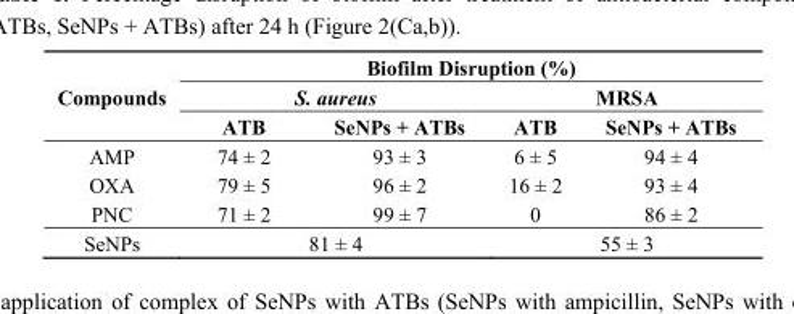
<table><thead><tr><td rowspan="3">Compounds</td><td colspan="4">Biofilm Disruption (%)</td></tr><tr><td colspan="2">S. aureus</td><td colspan="2">MRSA</td></tr><tr><td>ATB</td><td>SeNPs + ATBs</td><td>ATB</td><td>SeNPs + ATBs</td></tr></thead><tbody><tr><td>AMP</td><td>74 ± 2</td><td>93 ± 3</td><td>6 ± 5</td><td>94 ± 4</td></tr><tr><td>OXA</td><td>79 ± 5</td><td>96 ± 2</td><td>16 ± 2</td><td>93 ± 4</td></tr><tr><td>PNC</td><td>71 ± 2</td><td>99 ± 7</td><td>0</td><td>86 ± 2</td></tr><tr><td>SeNPs</td><td colspan="2">81 ± 4</td><td colspan="2">55 ± 3</td></tr></tbody></table>